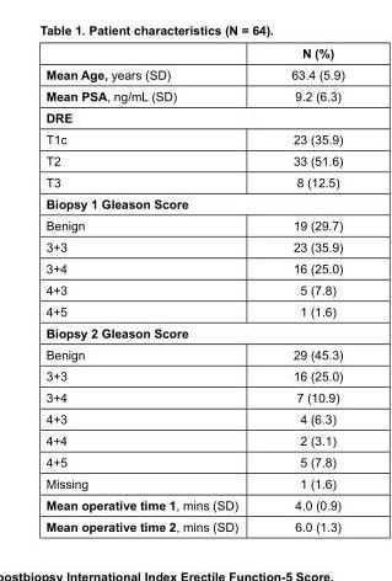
<table><thead><tr><td></td><td>N (%)</td></tr></thead><tbody><tr><td>Mean Age, years (SD)</td><td>63.4 (5.9)</td></tr><tr><td>Mean PSA, ng/mL (SD)</td><td>9.2 (6.3)</td></tr><tr><td colspan="2">DRE</td></tr><tr><td>T1c</td><td>23 (35.9)</td></tr><tr><td>T2</td><td>33 (51.6)</td></tr><tr><td>T3</td><td>8 (12.5)</td></tr><tr><td colspan="2">Biopsy 1 Gleason Score</td></tr><tr><td>Benign</td><td>19 (29.7)</td></tr><tr><td>3+3</td><td>23 (35.9)</td></tr><tr><td>3+4</td><td>16 (25.0)</td></tr><tr><td>4+3</td><td>5 (7.8)</td></tr><tr><td>4+5</td><td>1 (1.6)</td></tr><tr><td colspan="2">Biopsy 2 Gleason Score</td></tr><tr><td>Benign</td><td>29 (45.3)</td></tr><tr><td>3+3</td><td>16 (25.0)</td></tr><tr><td>3+4</td><td>7 (10.9)</td></tr><tr><td>4+3</td><td>4 (6.3)</td></tr><tr><td>4+4</td><td>2 (3.1)</td></tr><tr><td>4+5</td><td>5 (7.8)</td></tr><tr><td>Missing</td><td>1 (1.6)</td></tr><tr><td>Mean operative time 1, mins (SD)</td><td>4.0 (0.9)</td></tr><tr><td>Mean operative time 2, mins (SD)</td><td>6.0 (1.3)</td></tr></tbody></table>